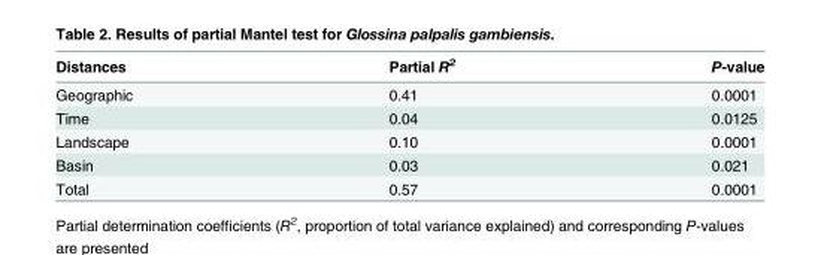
<table><thead><tr><td>Distances</td><td>Partial R<sup>2</sup></td><td>P-value</td></tr></thead><tbody><tr><td>Geographic</td><td>0.41</td><td>0.0001</td></tr><tr><td>Time</td><td>0.04</td><td>0.0125</td></tr><tr><td>Landscape</td><td>0.10</td><td>0.0001</td></tr><tr><td>Basin</td><td>0.03</td><td>0.021</td></tr><tr><td>Total</td><td>0.57</td><td>0.0001</td></tr></tbody></table>